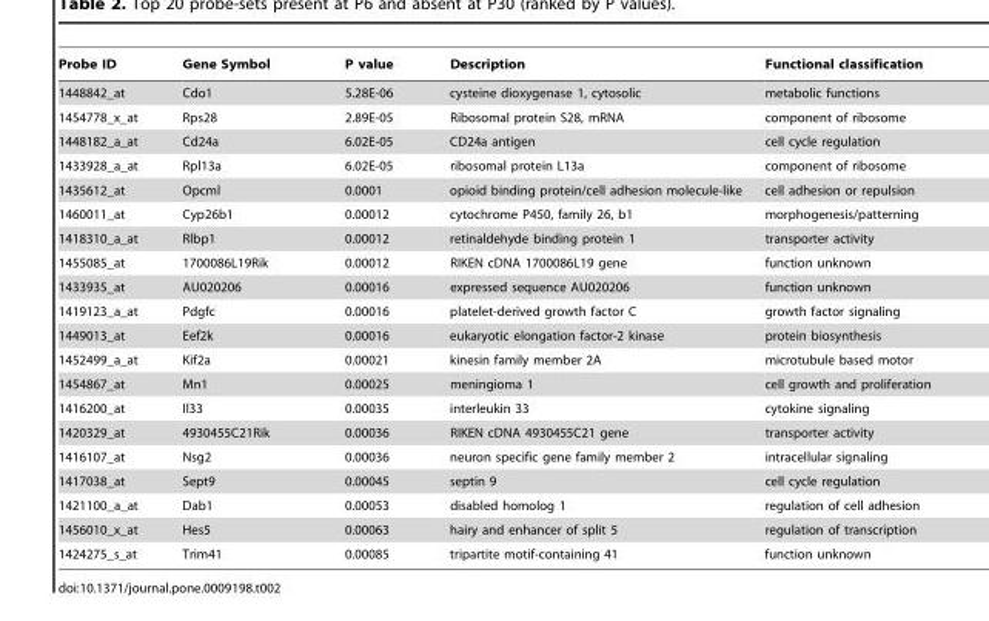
<table><thead><tr><td>Probe ID</td><td>Gene Symbol</td><td>P value</td><td>Description</td><td>Functional classification</td></tr></thead><tbody><tr><td>1448842_at</td><td>Cdo1</td><td>5.28E-06</td><td>cysteine dioxygenase 1, cytosolic</td><td>metabolic functions</td></tr><tr><td>1454778_x_at</td><td>Rps28</td><td>2.89E-05</td><td>Ribosomal protein S28, mRNA</td><td>component of ribosome</td></tr><tr><td>1448182_a_at</td><td>Cd24a</td><td>6.02E-05</td><td>CD24a antigen</td><td>cell cycle regulation</td></tr><tr><td>1433928_a_at</td><td>Rpl13a</td><td>6.02E-05</td><td>ribosomal protein L13a</td><td>component of ribosome</td></tr><tr><td>1435612_at</td><td>Opcml</td><td>0.0001</td><td>opioid binding protein/cell adhesion molecule-like</td><td>cell adhesion or repulsion</td></tr><tr><td>1460011_at</td><td>Cyp26b1</td><td>0.00012</td><td>cytochrome P450, family 26, b1</td><td>morphogenesis/patterning</td></tr><tr><td>1418310_a_at</td><td>Rlbp1</td><td>0.00012</td><td>retinaldehyde binding protein 1</td><td>transporter activity</td></tr><tr><td>1455085_at</td><td>1700086L19Rik</td><td>0.00012</td><td>RIKEN cDNA 1700086L19 gene</td><td>function unknown</td></tr><tr><td>1433935_at</td><td>AU020206</td><td>0.00016</td><td>expressed sequence AU020206</td><td>function unknown</td></tr><tr><td>1419123_a_at</td><td>Pdgfc</td><td>0.00016</td><td>platelet-derived growth factor C</td><td>growth factor signaling</td></tr><tr><td>1449013_at</td><td>Eef2k</td><td>0.00016</td><td>eukaryotic elongation factor-2 kinase</td><td>protein biosynthesis</td></tr><tr><td>1452499_a_at</td><td>Kif2a</td><td>0.00021</td><td>kinesin family member 2A</td><td>microtubule based motor</td></tr><tr><td>1454867_at</td><td>Mn1</td><td>0.00025</td><td>meningioma 1</td><td>cell growth and proliferation</td></tr><tr><td>1416200_at</td><td>Il33</td><td>0.00035</td><td>interleukin 33</td><td>cytokine signaling</td></tr><tr><td>1420329_at</td><td>4930455C21Rik</td><td>0.00036</td><td>RIKEN cDNA 4930455C21 gene</td><td>transporter activity</td></tr><tr><td>1416107_at</td><td>Nsg2</td><td>0.00036</td><td>neuron specific gene family member 2</td><td>intracellular signaling</td></tr><tr><td>1417038_at</td><td>Sept9</td><td>0.00045</td><td>septin 9</td><td>cell cycle regulation</td></tr><tr><td>1421100_a_at</td><td>Dab1</td><td>0.00053</td><td>disabled homolog 1</td><td>regulation of cell adhesion</td></tr><tr><td>1456010_x_at</td><td>Hes5</td><td>0.00063</td><td>hairy and enhancer of split 5</td><td>regulation of transcription</td></tr><tr><td>1424275_s_at</td><td>Trim41</td><td>0.00085</td><td>tripartite motif-containing 41</td><td>function unknown</td></tr></tbody></table>